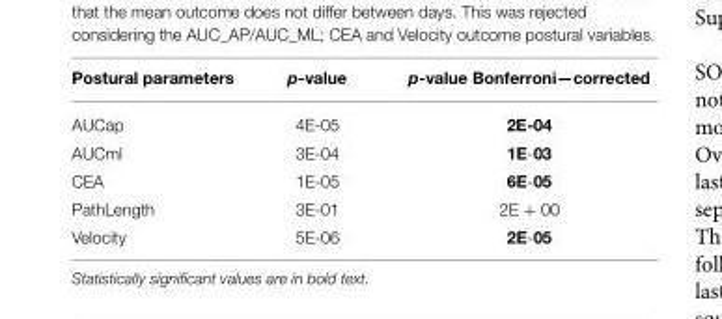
<table><thead><tr><td>Postural parameters</td><td>p-value</td><td>p-value Bonferroni—corrected</td></tr></thead><tbody><tr><td>AUCap</td><td>4E-05</td><td>2E-04</td></tr><tr><td>AUCml</td><td>3E-04</td><td>1E-03</td></tr><tr><td>CEA</td><td>1E-05</td><td>6E-05</td></tr><tr><td>PathLength</td><td>3E-01</td><td>2E + 00</td></tr><tr><td>Velocity</td><td>5E-06</td><td>2E-05</td></tr></tbody></table>